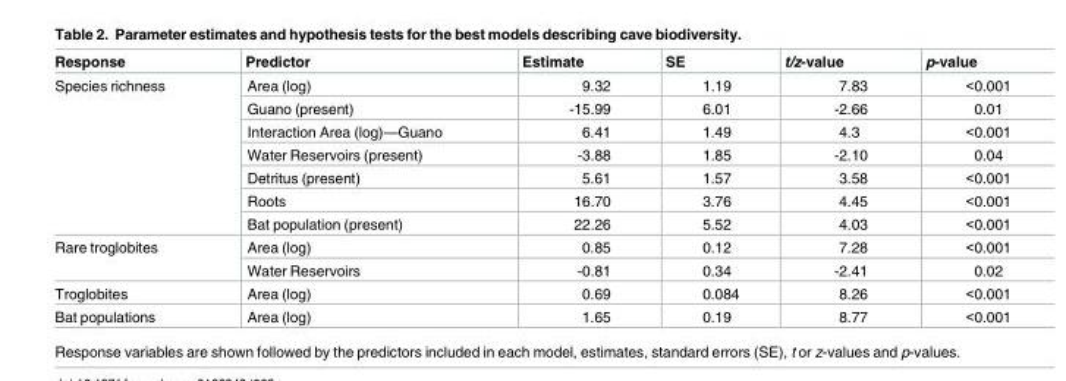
<table><thead><tr><td>Response</td><td>Predictor</td><td>Estimate</td><td>SE</td><td>t/z-value</td><td>p-value</td></tr></thead><tbody><tr><td rowspan="7">Species richness</td><td>Area (log)</td><td>9.32</td><td>1.19</td><td>7.83</td><td>&lt;0.001</td></tr><tr><td>Guano (present)</td><td>-15.99</td><td>6.01</td><td>-2.66</td><td>0.01</td></tr><tr><td>Interaction Area (log)—Guano</td><td>6.41</td><td>1.49</td><td>4.3</td><td>&lt;0.001</td></tr><tr><td>Water Reservoirs (present)</td><td>-3.88</td><td>1.85</td><td>-2.10</td><td>0.04</td></tr><tr><td>Detritus (present)</td><td>5.61</td><td>1.57</td><td>3.58</td><td>&lt;0.001</td></tr><tr><td>Roots</td><td>16.70</td><td>3.76</td><td>4.45</td><td>&lt;0.001</td></tr><tr><td>Bat population (present)</td><td>22.26</td><td>5.52</td><td>4.03</td><td>&lt;0.001</td></tr><tr><td rowspan="2">Rare troglobites</td><td>Area (log)</td><td>0.85</td><td>0.12</td><td>7.28</td><td>&lt;0.001</td></tr><tr><td>Water Reservoirs</td><td>-0.81</td><td>0.34</td><td>-2.41</td><td>0.02</td></tr><tr><td>Troglobites</td><td>Area (log)</td><td>0.69</td><td>0.084</td><td>8.26</td><td>&lt;0.001</td></tr><tr><td>Bat populations</td><td>Area (log)</td><td>1.65</td><td>0.19</td><td>8.77</td><td>&lt;0.001</td></tr></tbody></table>